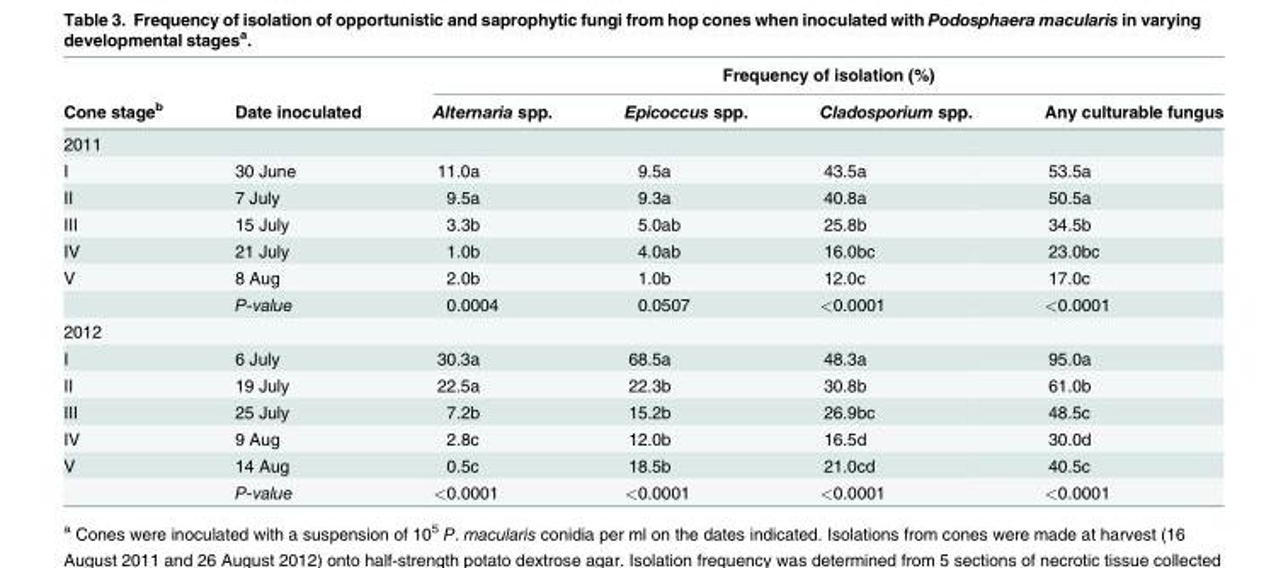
<table><thead><tr><td rowspan="2">Cone stage<sup>b</sup></td><td rowspan="2">Date inoculated</td><td colspan="4">Frequency of isolation (%)</td></tr><tr><td>Alternaria spp.</td><td>Epicoccus spp.</td><td>Cladosporium spp.</td><td>Any culturable fungus</td></tr></thead><tbody><tr><td colspan="6">2011</td></tr><tr><td>I</td><td>30 June</td><td>11.0a</td><td>9.5a</td><td>43.5a</td><td>53.5a</td></tr><tr><td>II</td><td>7 July</td><td>9.5a</td><td>9.3a</td><td>40.8a</td><td>50.5a</td></tr><tr><td>III</td><td>15 July</td><td>3.3b</td><td>5.0ab</td><td>25.8b</td><td>34.5b</td></tr><tr><td>IV</td><td>21 July</td><td>1.0b</td><td>4.0ab</td><td>16.0bc</td><td>23.0bc</td></tr><tr><td rowspan="2">V</td><td>8 Aug</td><td>2.0b</td><td>1.0b</td><td>12.0c</td><td>17.0c</td></tr><tr><td>P-value</td><td>0.0004</td><td>0.0507</td><td>&lt;0.0001</td><td>&lt;0.0001</td></tr><tr><td colspan="6">2012</td></tr><tr><td>I</td><td>6 July</td><td>30.3a</td><td>68.5a</td><td>48.3a</td><td>95.0a</td></tr><tr><td>II</td><td>19 July</td><td>22.5a</td><td>22.3b</td><td>30.8b</td><td>61.0b</td></tr><tr><td>III</td><td>25 July</td><td>7.2b</td><td>15.2b</td><td>26.9bc</td><td>48.5c</td></tr><tr><td>IV</td><td>9 Aug</td><td>2.8c</td><td>12.0b</td><td>16.5d</td><td>30.0d</td></tr><tr><td rowspan="2">V</td><td>14 Aug</td><td>0.5c</td><td>18.5b</td><td>21.0cd</td><td>40.5c</td></tr><tr><td>P-value</td><td>&lt;0.0001</td><td>&lt;0.0001</td><td>&lt;0.0001</td><td>&lt;0.0001</td></tr></tbody></table>